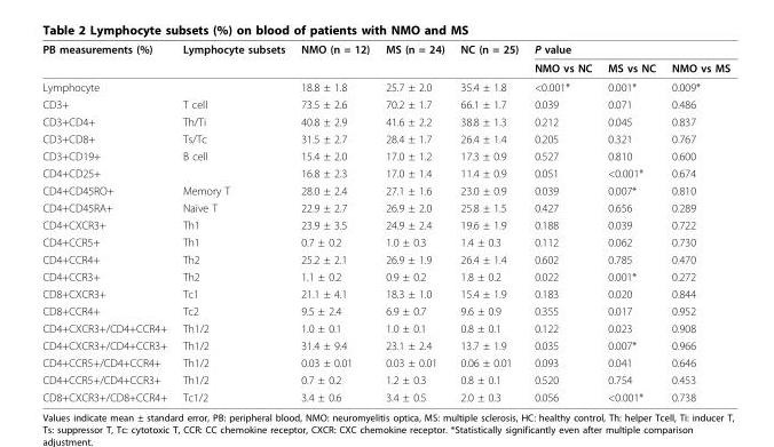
<table><thead><tr><td rowspan="2">PB measurements (%)</td><td rowspan="2">Lymphocyte subsets</td><td rowspan="2">NMO (n = 12)</td><td rowspan="2">MS (n = 24)</td><td rowspan="2">NC (n = 25)</td><td rowspan="2">P value NMO vs NC</td><td rowspan="2">MS vs NC</td><td rowspan="2">NMO vs MS</td></tr><tr></tr></thead><tbody><tr><td>Lymphocyte</td><td></td><td>18.8 ± 1.8</td><td>25.7 ± 2.0</td><td>35.4 ± 1.8</td><td>&lt;0.001*</td><td>0.001*</td><td>0.009*</td></tr><tr><td>CD3+</td><td>T cell</td><td>73.5 ± 2.6</td><td>70.2 ± 1.7</td><td>66.1 ± 1.7</td><td>0.039</td><td>0.071</td><td>0.486</td></tr><tr><td>CD3+CD4+</td><td>Th/Ti</td><td>40.8 ± 2.9</td><td>41.6 ± 2.2</td><td>38.8 ± 1.3</td><td>0.212</td><td>0.045</td><td>0.837</td></tr><tr><td>CD3+CD8+</td><td>Ts/Tc</td><td>31.5 ± 2.7</td><td>28.4 ± 1.7</td><td>26.4 ± 1.4</td><td>0.205</td><td>0.321</td><td>0.767</td></tr><tr><td>CD3+CD19+</td><td>B cell</td><td>15.4 ± 2.0</td><td>17.0 ± 1.2</td><td>17.3 ± 0.9</td><td>0.527</td><td>0.810</td><td>0.600</td></tr><tr><td>CD4+CD25+</td><td></td><td>16.8 ± 2.3</td><td>17.0 ± 1.4</td><td>11.4 ± 0.9</td><td>0.051</td><td>&lt;0.001*</td><td>0.674</td></tr><tr><td>CD4+CD45RO+</td><td>Memory T</td><td>28.0 ± 2.4</td><td>27.1 ± 1.6</td><td>23.0 ± 0.9</td><td>0.039</td><td>0.007*</td><td>0.810</td></tr><tr><td>CD4+CD45RA+</td><td>Naïve T</td><td>22.9 ± 2.7</td><td>26.9 ± 2.0</td><td>25.8 ± 1.5</td><td>0.427</td><td>0.656</td><td>0.289</td></tr><tr><td>CD4+CXCR3+</td><td>Th1</td><td>23.9 ± 3.5</td><td>24.9 ± 2.4</td><td>19.6 ± 1.9</td><td>0.188</td><td>0.039</td><td>0.722</td></tr><tr><td>CD4+CCR5+</td><td>Th1</td><td>0.7 ± 0.2</td><td>1.0 ± 0.3</td><td>1.4 ± 0.3</td><td>0.112</td><td>0.062</td><td>0.730</td></tr><tr><td>CD4+CCR4+</td><td>Th2</td><td>25.2 ± 2.1</td><td>26.9 ± 1.9</td><td>26.4 ± 1.4</td><td>0.602</td><td>0.785</td><td>0.470</td></tr><tr><td>CD4+CCR3+</td><td>Th2</td><td>1.1 ± 0.2</td><td>0.9 ± 0.2</td><td>1.8 ± 0.2</td><td>0.022</td><td>0.001*</td><td>0.272</td></tr><tr><td>CD8+CXCR3+</td><td>Tc1</td><td>21.1 ± 4.1</td><td>18.3 ± 1.0</td><td>15.4 ± 1.9</td><td>0.183</td><td>0.020</td><td>0.844</td></tr><tr><td>CD8+CCR4+</td><td>Tc2</td><td>9.5 ± 2.4</td><td>6.9 ± 0.7</td><td>9.6 ± 0.9</td><td>0.355</td><td>0.017</td><td>0.952</td></tr><tr><td>CD4+CXCR3+/CD4+CCR4+</td><td>Th1/2</td><td>1.0 ± 0.1</td><td>1.0 ± 0.1</td><td>0.8 ± 0.1</td><td>0.122</td><td>0.023</td><td>0.908</td></tr><tr><td>CD4+CXCR3+/CD4+CCR3+</td><td>Th1/2</td><td>31.4 ± 9.4</td><td>23.1 ± 2.4</td><td>13.7 ± 1.9</td><td>0.035</td><td>0.007*</td><td>0.966</td></tr><tr><td>CD4+CCR5+/CD4+CCR4+</td><td>Th1/2</td><td>0.03 ± 0.01</td><td>0.03 ± 0.01</td><td>0.06 ± 0.01</td><td>0.093</td><td>0.041</td><td>0.646</td></tr><tr><td>CD4+CCR5+/CD4+CCR3+</td><td>Th1/2</td><td>0.7 ± 0.2</td><td>1.2 ± 0.3</td><td>0.8 ± 0.1</td><td>0.520</td><td>0.754</td><td>0.453</td></tr><tr><td>CD8+CXCR3+/CD8+CCR4+</td><td>Tc1/2</td><td>3.4 ± 0.6</td><td>3.4 ± 0.5</td><td>2.0 ± 0.3</td><td>0.056</td><td>&lt;0.001*</td><td>0.738</td></tr></tbody></table>